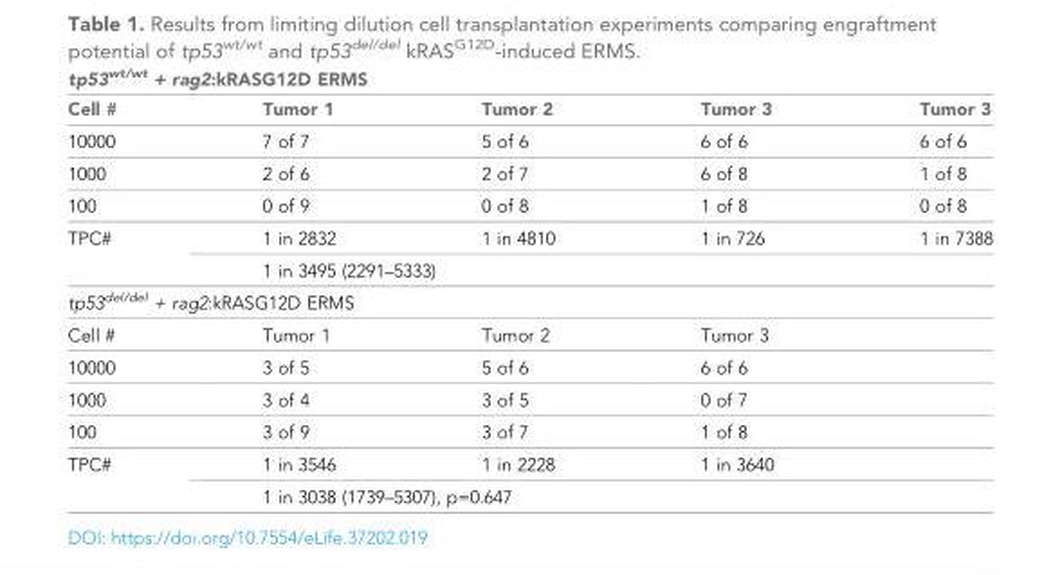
<table><thead><tr><td colspan="5">tp53<sup>wt/wt</sup> + rag2:kRASG12D ERMS</td></tr><tr><td>Cell #</td><td>Tumor 1</td><td>Tumor 2</td><td>Tumor 3</td><td>Tumor 3</td></tr></thead><tbody><tr><td>10000</td><td>7 of 7</td><td>5 of 6</td><td>6 of 6</td><td>6 of 6</td></tr><tr><td>1000</td><td>2 of 6</td><td>2 of 7</td><td>6 of 8</td><td>1 of 8</td></tr><tr><td>100</td><td>0 of 9</td><td>0 of 8</td><td>1 of 8</td><td>0 of 8</td></tr><tr><td rowspan="2">TPC#</td><td>1 in 2832</td><td>1 in 4810</td><td>1 in 726</td><td>1 in 7388</td></tr><tr><td colspan="4">1 in 3495 (2291–5333)</td></tr><tr><td colspan="5">tp53<sup>del/del</sup> + rag2:kRASG12D ERMS</td></tr><tr><td>Cell #</td><td>Tumor 1</td><td>Tumor 2</td><td>Tumor 3</td><td></td></tr><tr><td>10000</td><td>3 of 5</td><td>5 of 6</td><td>6 of 6</td><td></td></tr><tr><td>1000</td><td>3 of 4</td><td>3 of 5</td><td>0 of 7</td><td></td></tr><tr><td>100</td><td>3 of 9</td><td>3 of 7</td><td>1 of 8</td><td></td></tr><tr><td rowspan="2">TPC#</td><td>1 in 3546</td><td>1 in 2228</td><td>1 in 3640</td><td></td></tr><tr><td colspan="4">1 in 3038 (1739–5307), p=0.647</td></tr></tbody></table>